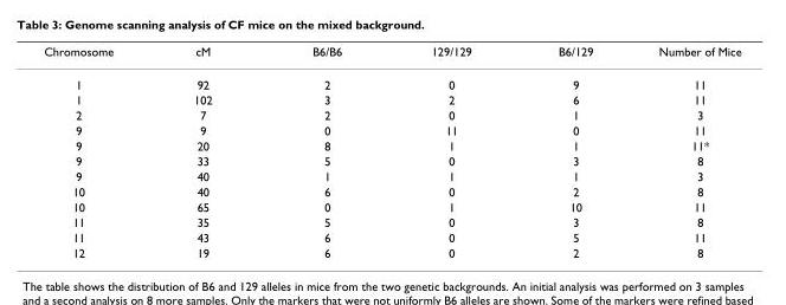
<table><thead><tr><td>Chromosome</td><td>cM</td><td>B6/B6</td><td>129/129</td><td>B6/129</td><td>Number of Mice</td></tr></thead><tbody><tr><td>1</td><td>92</td><td>2</td><td>0</td><td>9</td><td>11</td></tr><tr><td>1</td><td>102</td><td>3</td><td>2</td><td>6</td><td>11</td></tr><tr><td>2</td><td>7</td><td>2</td><td>0</td><td>1</td><td>3</td></tr><tr><td>9</td><td>9</td><td>0</td><td>11</td><td>0</td><td>11</td></tr><tr><td>9</td><td>20</td><td>8</td><td>1</td><td>1</td><td>11*</td></tr><tr><td>9</td><td>33</td><td>5</td><td>0</td><td>3</td><td>8</td></tr><tr><td>9</td><td>40</td><td>1</td><td>1</td><td>1</td><td>3</td></tr><tr><td>10</td><td>40</td><td>6</td><td>0</td><td>2</td><td>8</td></tr><tr><td>10</td><td>65</td><td>0</td><td>1</td><td>10</td><td>11</td></tr><tr><td>11</td><td>35</td><td>5</td><td>0</td><td>3</td><td>8</td></tr><tr><td>11</td><td>43</td><td>6</td><td>0</td><td>5</td><td>11</td></tr><tr><td>12</td><td>19</td><td>6</td><td>0</td><td>2</td><td>8</td></tr></tbody></table>